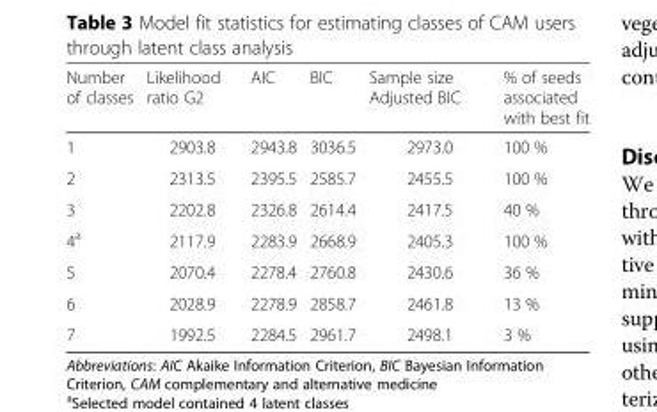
<table><thead><tr><td>Number of classes</td><td>Likelihood ratio G2</td><td>AIC</td><td>BIC</td><td>Sample size Adjusted BIC</td><td>% of seeds associated with best fit</td></tr></thead><tbody><tr><td>1</td><td>2903.8</td><td>2943.8</td><td>3036.5</td><td>2973.0</td><td>100 %</td></tr><tr><td>2</td><td>2313.5</td><td>2395.5</td><td>2585.7</td><td>2455.5</td><td>100 %</td></tr><tr><td>3</td><td>2202.8</td><td>2326.8</td><td>2614.4</td><td>2417.5</td><td>40 %</td></tr><tr><td>4<sup>a</sup></td><td>2117.9</td><td>2283.9</td><td>2668.9</td><td>2405.3</td><td>100 %</td></tr><tr><td>5</td><td>2070.4</td><td>2278.4</td><td>2760.8</td><td>2430.6</td><td>36 %</td></tr><tr><td>6</td><td>2028.9</td><td>2278.9</td><td>2858.7</td><td>2461.8</td><td>13 %</td></tr><tr><td>7</td><td>1992.5</td><td>2284.5</td><td>2961.7</td><td>2498.1</td><td>3 %</td></tr></tbody></table>